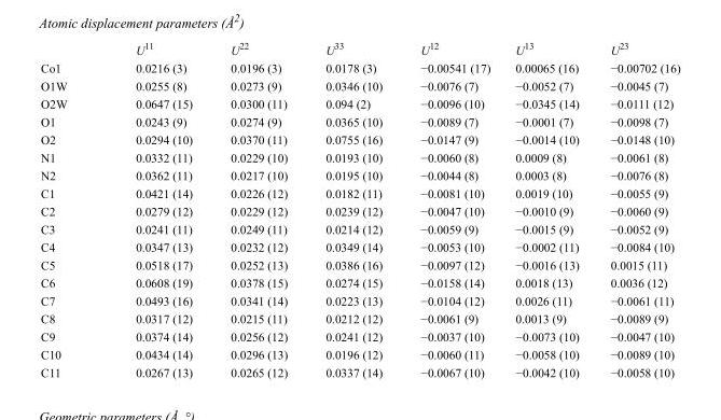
<table><thead><tr><td></td><td>U<sup>11</sup></td><td>U<sup>22</sup></td><td>U<sup>33</sup></td><td>U<sup>12</sup></td><td>U<sup>13</sup></td><td>U<sup>23</sup></td></tr></thead><tbody><tr><td>Co1</td><td>0.0216 (3)</td><td>0.0196 (3)</td><td>0.0178 (3)</td><td>−0.00541 (17)</td><td>0.00065 (16)</td><td>−0.00702 (16)</td></tr><tr><td>O1W</td><td>0.0255 (8)</td><td>0.0273 (9)</td><td>0.0346 (10)</td><td>−0.0076 (7)</td><td>−0.0052 (7)</td><td>−0.0045 (7)</td></tr><tr><td>O2W</td><td>0.0647 (15)</td><td>0.0300 (11)</td><td>0.094 (2)</td><td>−0.0096 (10)</td><td>−0.0345 (14)</td><td>−0.0111 (12)</td></tr><tr><td>O1</td><td>0.0243 (9)</td><td>0.0274 (9)</td><td>0.0365 (10)</td><td>−0.0089 (7)</td><td>−0.0001 (7)</td><td>−0.0098 (7)</td></tr><tr><td>O2</td><td>0.0294 (10)</td><td>0.0370 (11)</td><td>0.0755 (16)</td><td>−0.0147 (9)</td><td>−0.0014 (10)</td><td>−0.0148 (10)</td></tr><tr><td>N1</td><td>0.0332 (11)</td><td>0.0229 (10)</td><td>0.0193 (10)</td><td>−0.0060 (8)</td><td>0.0009 (8)</td><td>−0.0061 (8)</td></tr><tr><td>N2</td><td>0.0362 (11)</td><td>0.0217 (10)</td><td>0.0195 (10)</td><td>−0.0044 (8)</td><td>0.0003 (8)</td><td>−0.0076 (8)</td></tr><tr><td>C1</td><td>0.0421 (14)</td><td>0.0226 (12)</td><td>0.0182 (11)</td><td>−0.0081 (10)</td><td>0.0019 (10)</td><td>−0.0055 (9)</td></tr><tr><td>C2</td><td>0.0279 (12)</td><td>0.0229 (12)</td><td>0.0239 (12)</td><td>−0.0047 (10)</td><td>−0.0010 (9)</td><td>−0.0060 (9)</td></tr><tr><td>C3</td><td>0.0241 (11)</td><td>0.0249 (11)</td><td>0.0214 (12)</td><td>−0.0059 (9)</td><td>−0.0015 (9)</td><td>−0.0052 (9)</td></tr><tr><td>C4</td><td>0.0347 (13)</td><td>0.0232 (12)</td><td>0.0349 (14)</td><td>−0.0053 (10)</td><td>−0.0002 (11)</td><td>−0.0084 (10)</td></tr><tr><td>C5</td><td>0.0518 (17)</td><td>0.0252 (13)</td><td>0.0386 (16)</td><td>−0.0097 (12)</td><td>−0.0016 (13)</td><td>0.0015 (11)</td></tr><tr><td>C6</td><td>0.0608 (19)</td><td>0.0378 (15)</td><td>0.0274 (15)</td><td>−0.0158 (14)</td><td>0.0018 (13)</td><td>0.0036 (12)</td></tr><tr><td>C7</td><td>0.0493 (16)</td><td>0.0341 (14)</td><td>0.0223 (13)</td><td>−0.0104 (12)</td><td>0.0026 (11)</td><td>−0.0061 (11)</td></tr><tr><td>C8</td><td>0.0317 (12)</td><td>0.0215 (11)</td><td>0.0212 (12)</td><td>−0.0061 (9)</td><td>0.0013 (9)</td><td>−0.0089 (9)</td></tr><tr><td>C9</td><td>0.0374 (14)</td><td>0.0256 (12)</td><td>0.0241 (12)</td><td>−0.0037 (10)</td><td>−0.0073 (10)</td><td>−0.0047 (10)</td></tr><tr><td>C10</td><td>0.0434 (14)</td><td>0.0296 (13)</td><td>0.0196 (12)</td><td>−0.0060 (11)</td><td>−0.0058 (10)</td><td>−0.0089 (10)</td></tr><tr><td>C11</td><td>0.0267 (13)</td><td>0.0265 (12)</td><td>0.0337 (14)</td><td>−0.0067 (10)</td><td>−0.0042 (10)</td><td>−0.0058 (10)</td></tr></tbody></table>